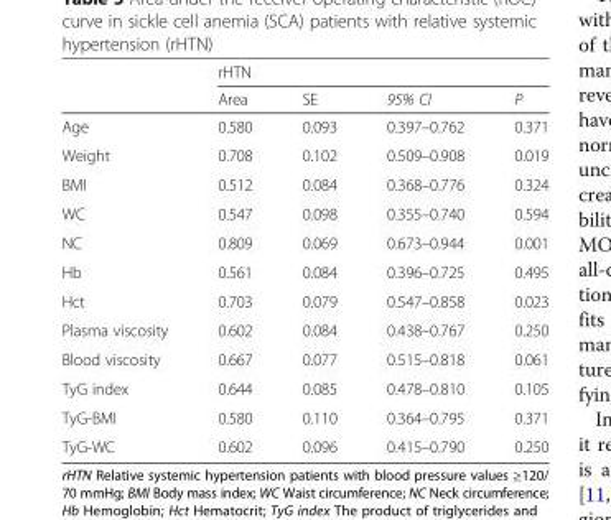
<table><thead><tr><td rowspan="2"></td><td colspan="4">rHTN</td></tr><tr><td>Area</td><td>SE</td><td>95% CI</td><td>P</td></tr></thead><tbody><tr><td>Age</td><td>0.580</td><td>0.093</td><td>0.397–0.762</td><td>0.371</td></tr><tr><td>Weight</td><td>0.708</td><td>0.102</td><td>0.509–0.908</td><td>0.019</td></tr><tr><td>BMI</td><td>0.512</td><td>0.084</td><td>0.368–0.776</td><td>0.324</td></tr><tr><td>WC</td><td>0.547</td><td>0.098</td><td>0.355–0.740</td><td>0.594</td></tr><tr><td>NC</td><td>0.809</td><td>0.069</td><td>0.673–0.944</td><td>0.001</td></tr><tr><td>Hb</td><td>0.561</td><td>0.084</td><td>0.396–0.725</td><td>0.495</td></tr><tr><td>Hct</td><td>0.703</td><td>0.079</td><td>0.547–0.858</td><td>0.023</td></tr><tr><td>Plasma viscosity</td><td>0.602</td><td>0.084</td><td>0.438–0.767</td><td>0.250</td></tr><tr><td>Blood viscosity</td><td>0.667</td><td>0.077</td><td>0.515–0.818</td><td>0.061</td></tr><tr><td>TyG index</td><td>0.644</td><td>0.085</td><td>0.478–0.810</td><td>0.105</td></tr><tr><td>TyG-BMI</td><td>0.580</td><td>0.110</td><td>0.364–0.795</td><td>0.371</td></tr><tr><td>TyG-WC</td><td>0.602</td><td>0.096</td><td>0.415–0.790</td><td>0.250</td></tr></tbody></table>